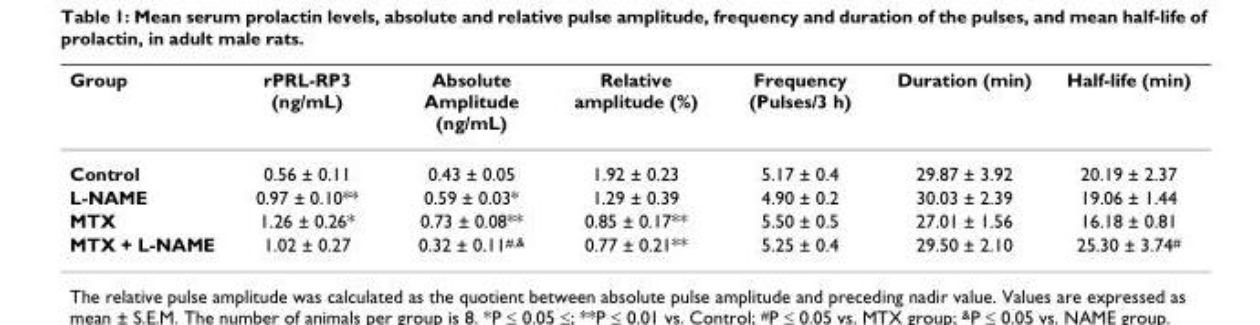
<table><thead><tr><td>Group</td><td>rPRL-RP3 (ng/mL)</td><td>Absolute Amplitude (ng/mL)</td><td>Relative amplitude (%)</td><td>Frequency (Pulses/3 h)</td><td>Duration (min)</td><td>Half-life (min)</td></tr></thead><tbody><tr><td>Control</td><td>0.56 ± 0.11</td><td>0.43 ± 0.05</td><td>1.92 ± 0.23</td><td>5.17 ± 0.4</td><td>29.87 ± 3.92</td><td>20.19 ± 2.37</td></tr><tr><td>L-NAME</td><td>0.97 ± 0.10**</td><td>0.59 ± 0.03*</td><td>1.29 ± 0.39</td><td>4.90 ± 0.2</td><td>30.03 ± 2.39</td><td>19.06 ± 1.44</td></tr><tr><td>MTX</td><td>1.26 ± 0.26*</td><td>0.73 ± 0.08**</td><td>0.85 ± 0.17**</td><td>5.50 ± 0.5</td><td>27.01 ± 1.56</td><td>16.18 ± 0.81</td></tr><tr><td>MTX + L-NAME</td><td>1.02 ± 0.27</td><td>0.32 ± 0.11<sup>#,&amp;</sup></td><td>0.77 ± 0.21**</td><td>5.25 ± 0.4</td><td>29.50 ± 2.10</td><td>25.30 ± 3.74<sup>#</sup></td></tr></tbody></table>